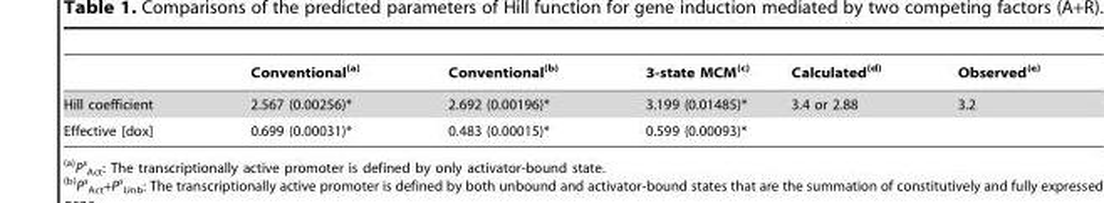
<table><thead><tr><td></td><td>Conventional(a)</td><td>Conventional(b)</td><td>3-state MCM(c)</td><td>Calculated(d)</td><td>Observed(e)</td></tr></thead><tbody><tr><td>Hill coefficient</td><td>2.567 (0.00256)*</td><td>2.692 (0.00196)*</td><td>3.199 (0.01485)*</td><td>3.4 or 2.88</td><td>3.2</td></tr><tr><td>Effective [dox]</td><td>0.699 (0.00031)*</td><td>0.483 (0.00015)*</td><td>0.599 (0.00093)*</td><td></td><td></td></tr></tbody></table>